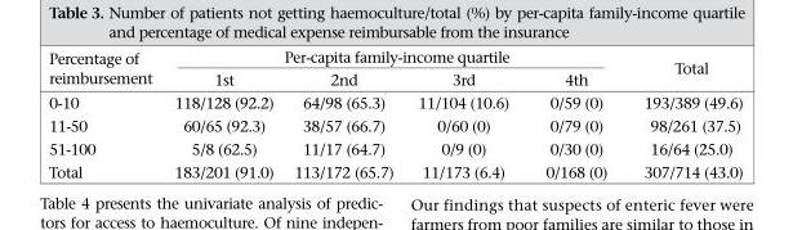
<table><thead><tr><td rowspan="2">Percentage of reimbursement</td><td colspan="4">Per-capita family-income quartile</td><td rowspan="2">Total</td></tr><tr><td>1st</td><td>2nd</td><td>3rd</td><td>4th</td></tr></thead><tbody><tr><td>0-10</td><td>118/128 (92.2)</td><td>64/98 (65.3)</td><td>11/104 (10.6)</td><td>0/59 (0)</td><td>193/389 (49.6)</td></tr><tr><td>11-50</td><td>60/65 (92.3)</td><td>38/57 (66.7)</td><td>0/60 (0)</td><td>0/79 (0)</td><td>98/261 (37.5)</td></tr><tr><td>51-100</td><td>5/8 (62.5)</td><td>11/17 (64.7)</td><td>0/9 (0)</td><td>0/30 (0)</td><td>16/64 (25.0)</td></tr><tr><td>Total</td><td>183/201 (91.0)</td><td>113/172 (65.7)</td><td>11/173 (6.4)</td><td>0/168 (0)</td><td>307/714 (43.0)</td></tr></tbody></table>